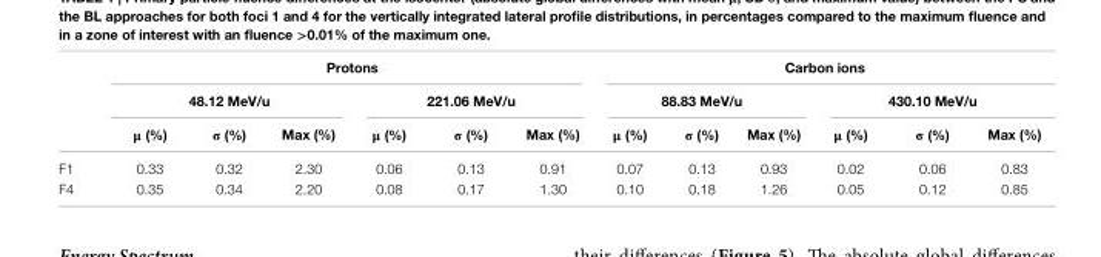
<table><thead><tr><td rowspan="3"></td><td colspan="6">Protons</td><td colspan="6">carbon ions</td></tr><tr><td colspan="3">48.12 MeV/u</td><td colspan="3">221.06 MeV/u</td><td colspan="3">88.83 MeV/u</td><td colspan="3">430.10 MeV/u</td></tr><tr><td>μ (%)</td><td>σ (%)</td><td>Max (%)</td><td>μ (%)</td><td>σ (%)</td><td>Max (%)</td><td>μ (%)</td><td>σ (%)</td><td>Max (%)</td><td>μ (%)</td><td>σ (%)</td><td>Max (%)</td></tr></thead><tbody><tr><td>F1</td><td>0.33</td><td>0.32</td><td>2.30</td><td>0.06</td><td>0.13</td><td>0.91</td><td>0.07</td><td>0.13</td><td>0.93</td><td>0.02</td><td>0.06</td><td>0.83</td></tr><tr><td>F4</td><td>0.35</td><td>0.34</td><td>2.20</td><td>0.08</td><td>0.17</td><td>1.30</td><td>0.10</td><td>0.18</td><td>1.26</td><td>0.05</td><td>0.12</td><td>0.85</td></tr></tbody></table>